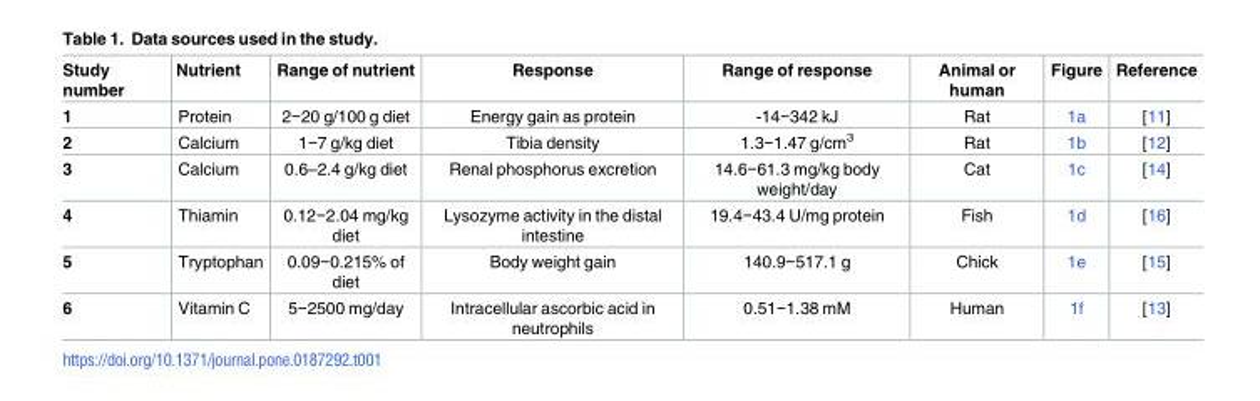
<table><thead><tr><td>Study number</td><td>Nutrient</td><td>Range of nutrient</td><td>Response</td><td>Range of response</td><td>Animal or human</td><td>Figure</td><td>Reference</td></tr></thead><tbody><tr><td>1</td><td>Protein</td><td>2−20 g/100 g diet</td><td>Energy gain as protein</td><td>-14−342 kJ</td><td>Rat</td><td>1a</td><td>[11]</td></tr><tr><td>2</td><td>Calcium</td><td>1−7 g/kg diet</td><td>Tibia density</td><td>1.3−1.47 g/cm<sup>3</sup></td><td>Rat</td><td>1b</td><td>[12]</td></tr><tr><td>3</td><td>Calcium</td><td>0.6–2.4 g/kg diet</td><td>Renal phosphorus excretion</td><td>14.6−61.3 mg/kg body weight/day</td><td>Cat</td><td>1c</td><td>[14]</td></tr><tr><td>4</td><td>Thiamin</td><td>0.12−2.04 mg/kg diet</td><td>Lysozyme activity in the distal intestine</td><td>19.4−43.4 U/mg protein</td><td>Fish</td><td>1d</td><td>[16]</td></tr><tr><td>5</td><td>Tryptophan</td><td>0.09−0.215% of diet</td><td>Body weight gain</td><td>140.9−517.1 g</td><td>Chick</td><td>1e</td><td>[15]</td></tr><tr><td>6</td><td>Vitamin C</td><td>5−2500 mg/day</td><td>Intracellular ascorbic acid in neutrophils</td><td>0.51−1.38 mM</td><td>Human</td><td>1f</td><td>[13]</td></tr></tbody></table>